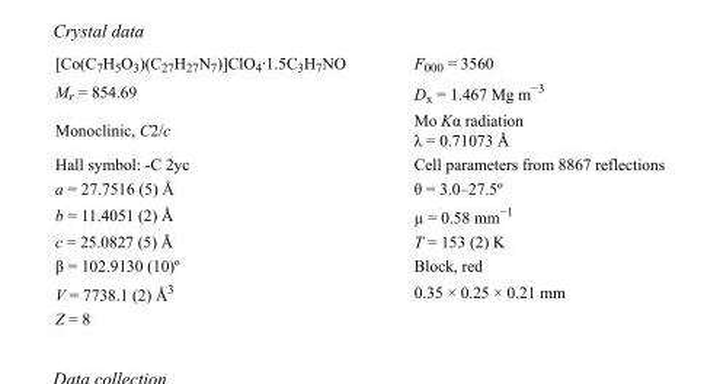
<table><tbody><tr><td>[Co(C<sub>7</sub>H<sub>5</sub>O<sub>3</sub>)(C<sub>27</sub>H<sub>27</sub>N<sub>7</sub>)]ClO<sub>4</sub>·1.5C<sub>3</sub>H<sub>7</sub>NO</td><td>F000 = 3560</td></tr><tr><td>M<sub>r</sub> = 854.69</td><td>D<sub>x</sub> = 1.467 Mg m<sup>−3</sup></td></tr><tr><td>Monoclinic, C2/c</td><td>Mo Kα radiation λ = 0.71073 Å</td></tr><tr><td>Hall symbol: -C 2yc</td><td>Cell parameters from 8867 reflections</td></tr><tr><td>a = 27.7516 (5) Å</td><td>θ = 3.0–27.5º</td></tr><tr><td>b = 11.4051 (2) Å</td><td>µ = 0.58 mm<sup>−1</sup></td></tr><tr><td>c = 25.0827 (5) Å</td><td>T = 153 (2) K</td></tr><tr><td>β = 102.9130 (10)º</td><td>Block, red</td></tr><tr><td>V = 7738.1 (2) Å<sup>3</sup></td><td>0.35 × 0.25 × 0.21 mm</td></tr><tr><td>Z = 8</td><td></td></tr></tbody></table>